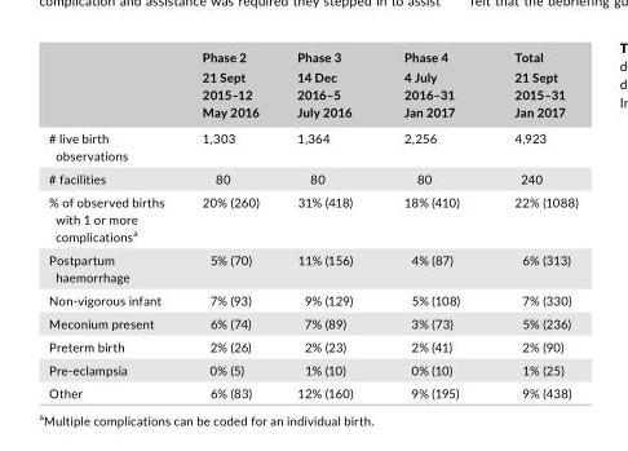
<table><thead><tr><td rowspan="2"></td><td rowspan="2">Phase 2 21 Sept 2015–12 May 2016</td><td rowspan="2">Phase 3 14 Dec 2016–5 July 2016</td><td rowspan="2">Phase 4 4 July 2016–31 Jan 2017</td><td rowspan="2">Total 21 Sept 2015–31 Jan 2017</td></tr><tr></tr></thead><tbody><tr><td># live birth observations</td><td>1,303</td><td>1,364</td><td>2,256</td><td>4,923</td></tr><tr><td># facilities</td><td>80</td><td>80</td><td>80</td><td>240</td></tr><tr><td>% of observed births with 1 or more complications<sup>a</sup></td><td>20% (260)</td><td>31% (418)</td><td>18% (410)</td><td>22% (1088)</td></tr><tr><td>Postpartum haemorrhage</td><td>5% (70)</td><td>11% (156)</td><td>4% (87)</td><td>6% (313)</td></tr><tr><td>Non- vigorous infant</td><td>7% (93)</td><td>9% (129)</td><td>5% (108)</td><td>7% (330)</td></tr><tr><td>Meconium present</td><td>6% (74)</td><td>7% (89)</td><td>3% (73)</td><td>5% (236)</td></tr><tr><td>Preterm birth</td><td>2% (26)</td><td>2% (23)</td><td>2% (41)</td><td>2% (90)</td></tr><tr><td>Pre- eclampsia</td><td>0% (5)</td><td>1% (10)</td><td>0% (10)</td><td>1% (25)</td></tr><tr><td>Other</td><td>6% (83)</td><td>12% (160)</td><td>9% (195)</td><td>9% (438)</td></tr></tbody></table>